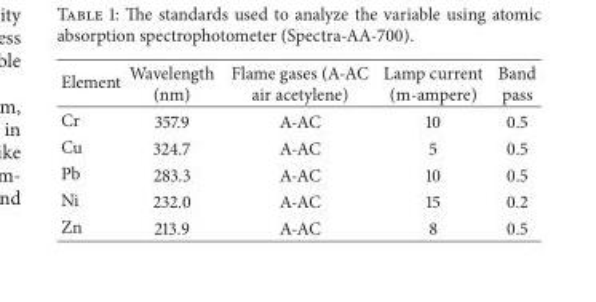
<table><thead><tr><td>Element</td><td>Wavelength (nm)</td><td>Flame gases (A-AC air acetylene)</td><td>Lamp current (m-ampere)</td><td>Band pass</td></tr></thead><tbody><tr><td>Cr</td><td>357.9</td><td>A-AC</td><td>10</td><td>0.5</td></tr><tr><td>Cu</td><td>324.7</td><td>A-AC</td><td>5</td><td>0.5</td></tr><tr><td>Pb</td><td>283.3</td><td>A-AC</td><td>10</td><td>0.5</td></tr><tr><td>Ni</td><td>232.0</td><td>A-AC</td><td>15</td><td>0.2</td></tr><tr><td>Zn</td><td>213.9</td><td>A-AC</td><td>8</td><td>0.5</td></tr></tbody></table>